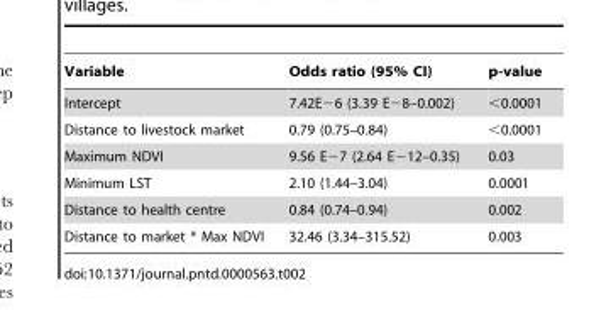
<table><thead><tr><td>Variable</td><td>Odds ratio (95% CI)</td><td>p-value</td></tr></thead><tbody><tr><td>Intercept</td><td>7.42E−6 (3.39 E−8–0.002)</td><td>&lt;0.0001</td></tr><tr><td>Distance to livestock market</td><td>0.79 (0.75–0.84)</td><td>&lt;0.0001</td></tr><tr><td>Maximum NDVI</td><td>9.56 E−7 (2.64 E−12–0.35)</td><td>0.03</td></tr><tr><td>Minimum LST</td><td>2.10 (1.44–3.04)</td><td>0.0001</td></tr><tr><td>Distance to health centre</td><td>0.84 (0.74–0.94)</td><td>0.002</td></tr><tr><td>Distance to market * Max NDVI</td><td>32.46 (3.34–315.52)</td><td>0.003</td></tr></tbody></table>